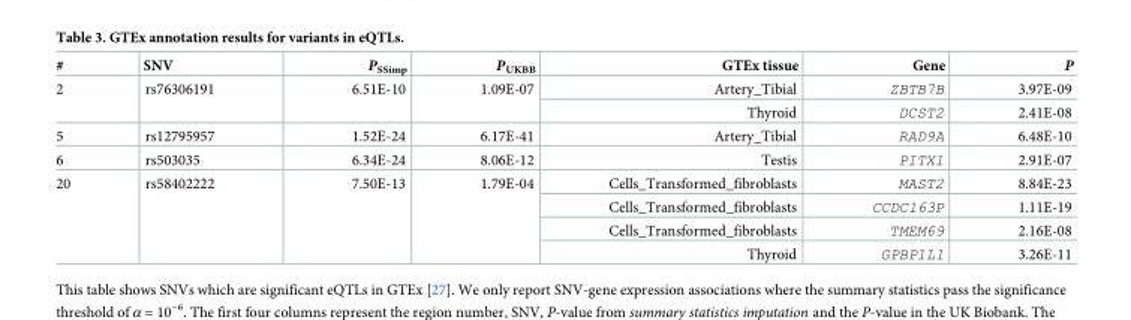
<table><thead><tr><td>#</td><td>SNV</td><td>P<sub>SSimp</sub></td><td>P<sub>UKBB</sub></td><td>GTEx tissue</td><td>Gene</td><td>P</td></tr></thead><tbody><tr><td rowspan="2">2</td><td rowspan="2">rs76306191</td><td rowspan="2">6.51E-10</td><td rowspan="2">1.09E-07</td><td>Artery_Tibial</td><td>ZBTB7B</td><td>3.97E-09</td></tr><tr><td>Thyroid</td><td>DCST2</td><td>2.41E-08</td></tr><tr><td>5</td><td>rs12795957</td><td>1.52E-24</td><td>6.17E-41</td><td>Artery_Tibial</td><td>RAD9A</td><td>6.48E-10</td></tr><tr><td>6</td><td>rs503035</td><td>6.34E-24</td><td>8.06E-12</td><td>Testis</td><td>PITX1</td><td>2.91E-07</td></tr><tr><td rowspan="4">20</td><td rowspan="4">rs58402222</td><td rowspan="4">7.50E-13</td><td rowspan="4">1.79E-04</td><td>Cells_Transformed_fibroblasts</td><td>MAST2</td><td>8.84E-23</td></tr><tr><td>Cells_Transformed_fibroblasts</td><td>CCDC163P</td><td>1.11E-19</td></tr><tr><td>Cells_Transformed_fibroblasts</td><td>TMEM69</td><td>2.16E-08</td></tr><tr><td>Thyroid</td><td>GPBP1L1</td><td>3.26E-11</td></tr></tbody></table>